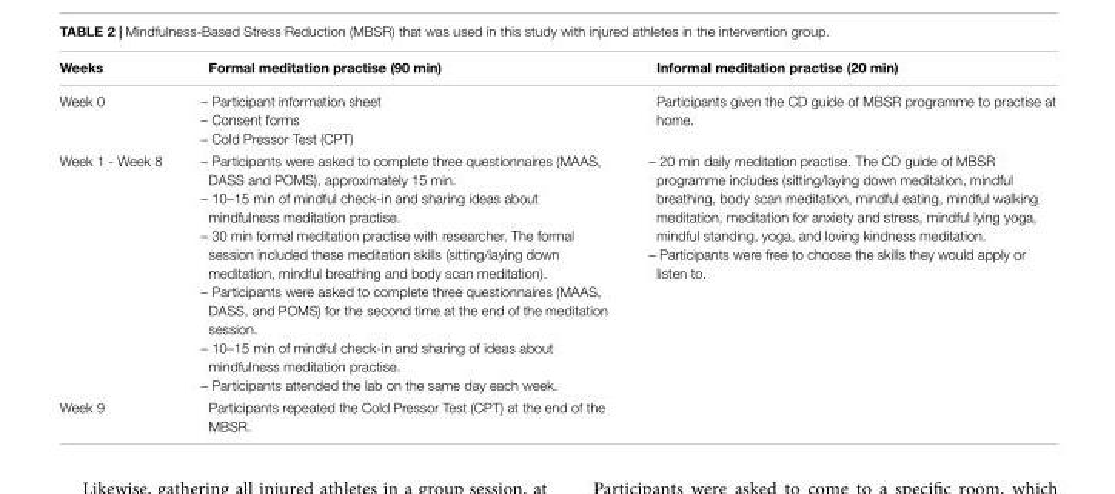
<table><thead><tr><td>Weeks</td><td>Formal meditation practise (90 min)</td><td>Informal meditation practise (20 min)</td></tr></thead><tbody><tr><td>Week 0</td><td>– Participant information sheet – Consent forms – Cold Pressor Test (CPT)</td><td>Participants given the CD guide of MBSR programme to practise at home.</td></tr><tr><td>Week 1 - Week 8</td><td>– Participants were asked to complete three questionnaires (MAAS, DASS and POMS), approximately 15 min. – 10–15 min of mindful check-in and sharing ideas about mindfulness meditation practise. – 30 min formal meditation practise with researcher. The formal session included these meditation skills (sitting/laying down meditation, mindful breathing and body scan meditation). – Participants were asked to complete three questionnaires (MAAS, DASS, and POMS) for the second time at the end of the meditation session. – 10–15 min of mindful check-in and sharing of ideas about mindfulness meditation practise. – Participants attended the lab on the same day each week.</td><td>– 20 min daily meditation practise. The CD guide of MBSR programme includes (sitting/laying down meditation, mindful breathing, body scan meditation, mindful eating, mindful walking meditation, meditation for anxiety and stress, mindful lying yoga, mindful standing, yoga, and loving kindness meditation. – Participants were free to choose the skills they would apply or listen to.</td></tr><tr><td>Week 9</td><td>Participants repeated the Cold Pressor Test (CPT) at the end of the MBSR.</td><td></td></tr></tbody></table>